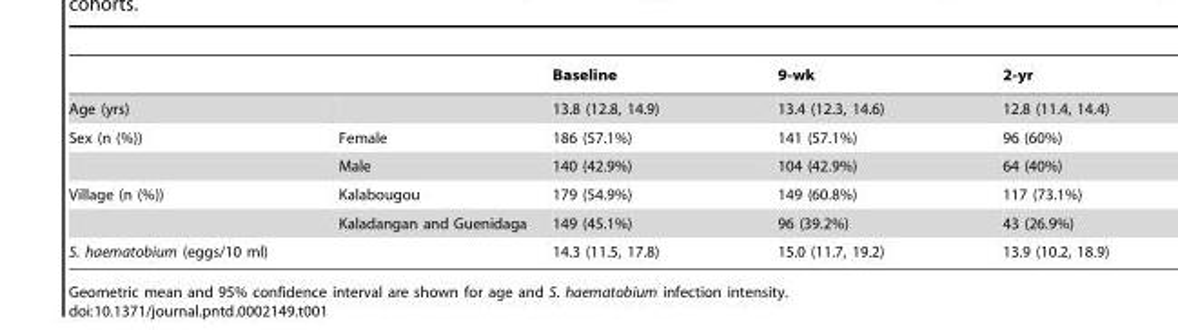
<table><thead><tr><td></td><td></td><td>Baseline</td><td>9-wk</td><td>2-yr</td></tr></thead><tbody><tr><td>Age (yrs)</td><td></td><td>13.8 (12.8, 14.9)</td><td>13.4 (12.3, 14.6)</td><td>12.8 (11.4, 14.4)</td></tr><tr><td rowspan="2">Sex (n (%))</td><td>Female</td><td>186 (57.1%)</td><td>141 (57.1%)</td><td>96 (60%)</td></tr><tr><td>Male</td><td>140 (42.9%)</td><td>104 (42.9%)</td><td>64 (40%)</td></tr><tr><td rowspan="2">Village (n (%))</td><td>Kalabougou</td><td>179 (54.9%)</td><td>149 (60.8%)</td><td>117 (73.1%)</td></tr><tr><td>Kaladangan and Guenidaga</td><td>149 (45.1%)</td><td>96 (39.2%)</td><td>43 (26.9%)</td></tr><tr><td>S. haematobium (eggs/10 ml)</td><td></td><td>14.3 (11.5, 17.8)</td><td>15.0 (11.7, 19.2)</td><td>13.9 (10.2, 18.9)</td></tr></tbody></table>